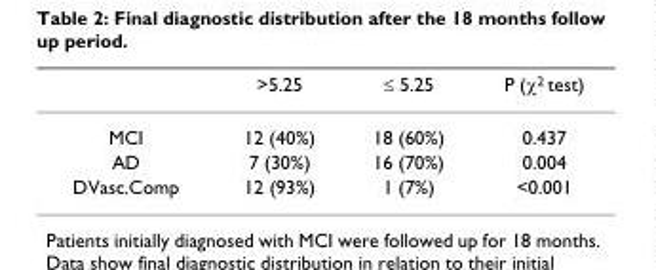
<table><thead><tr><td></td><td>&gt;5.25</td><td>≤ 5.25</td><td>P (χ<sup>2</sup> test)</td></tr></thead><tbody><tr><td>MCI</td><td>12 (40%)</td><td>18 (60%)</td><td>0.437</td></tr><tr><td>AD</td><td>7 (30%)</td><td>16 (70%)</td><td>0.004</td></tr><tr><td>DVasc.Comp</td><td>12 (93%)</td><td>1 (7%)</td><td>&lt;0.001</td></tr></tbody></table>